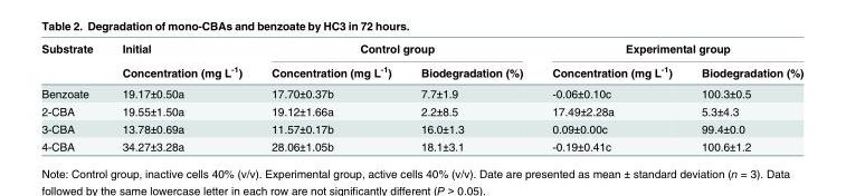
<table><thead><tr><td rowspan="2">Substrate</td><td rowspan="2">Initial Concentration (mg L<sup>-1</sup>)</td><td colspan="2">Control group</td><td colspan="2">Experimental group</td></tr><tr><td>Concentration (mg L<sup>-1</sup>)</td><td>Biodegradation (%)</td><td>Concentration (mg L<sup>-1</sup>)</td><td>Biodegradation (%)</td></tr></thead><tbody><tr><td>Benzoate</td><td>19.17±0.50a</td><td>17.70±0.37b</td><td>7.7±1.9</td><td>-0.06±0.10c</td><td>100.3±0.5</td></tr><tr><td>2-CBA</td><td>19.55±1.50a</td><td>19.12±1.66a</td><td>2.2±8.5</td><td>17.49±2.28a</td><td>5.3±4.3</td></tr><tr><td>3-CBA</td><td>13.78±0.69a</td><td>11.57±0.17b</td><td>16.0±1.3</td><td>0.09±0.00c</td><td>99.4±0.0</td></tr><tr><td>4-CBA</td><td>34.27±3.28a</td><td>28.06±1.05b</td><td>18.1±3.1</td><td>-0.19±0.41c</td><td>100.6±1.2</td></tr></tbody></table>